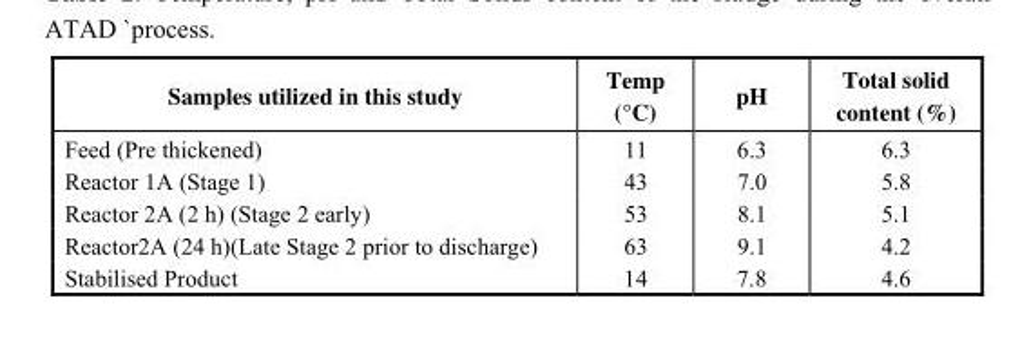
<table><thead><tr><td>Samples utilized in this study</td><td>Temp (°C)</td><td>pH</td><td>Total solid content (%)</td></tr></thead><tbody><tr><td>Feed (Pre thickened)</td><td>11</td><td>6.3</td><td>6.3</td></tr><tr><td>Reactor 1A (Stage 1)</td><td>43</td><td>7.0</td><td>5.8</td></tr><tr><td>Reactor 2A (2 h) (Stage 2 early)</td><td>53</td><td>8.1</td><td>5.1</td></tr><tr><td>Reactor2A (24 h)(Late Stage 2 prior to discharge)</td><td>63</td><td>9.1</td><td>4.2</td></tr><tr><td>Stabilised Product</td><td>14</td><td>7.8</td><td>4.6</td></tr></tbody></table>